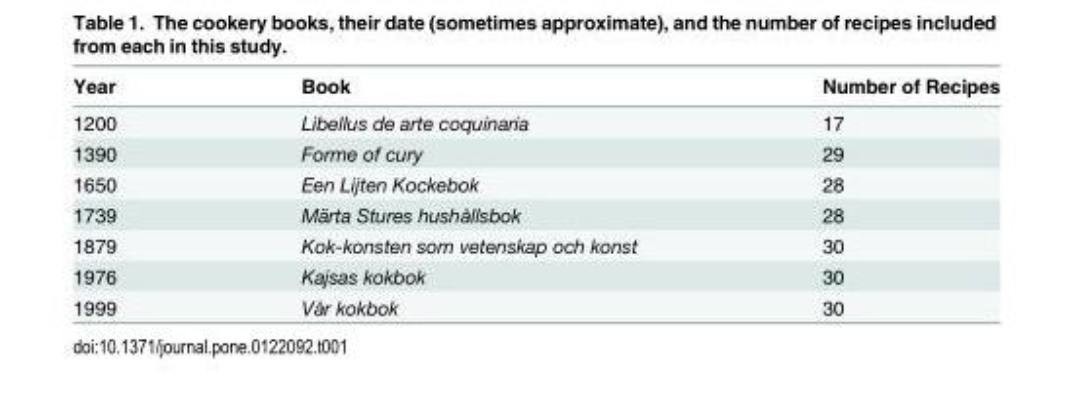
<table><thead><tr><td>Year</td><td>Book</td><td>Number of Recipes</td></tr></thead><tbody><tr><td>1200</td><td>Libellus de arte coquinaria</td><td>17</td></tr><tr><td>1390</td><td>Forme of cury</td><td>29</td></tr><tr><td>1650</td><td>Een Lijten Kockebok</td><td>28</td></tr><tr><td>1739</td><td>Märta Stures hushållsbok</td><td>28</td></tr><tr><td>1879</td><td>Kok-konsten som vetenskap och konst</td><td>30</td></tr><tr><td>1976</td><td>Kajsas kokbok</td><td>30</td></tr><tr><td>1999</td><td>Vår kokbok</td><td>30</td></tr></tbody></table>